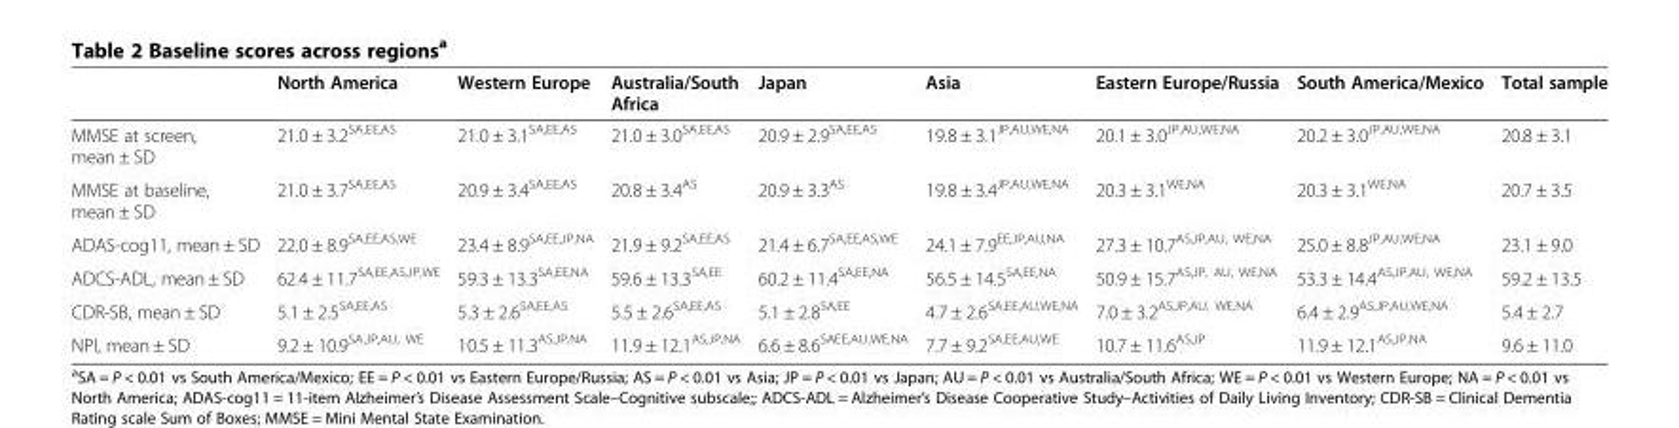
<table><thead><tr><td></td><td>North America</td><td>Western Europe</td><td>Australia/South Africa</td><td>Japan</td><td>Asia</td><td>Eastern Europe/Russia</td><td>South America/Mexico</td><td>Total sample</td></tr></thead><tbody><tr><td>MMSE at screen, mean ± SD</td><td>21.0 ± 3.2<sup>SA,EE,AS</sup></td><td>21.0 ± 3.1<sup>SA,EE,AS</sup></td><td>21.0 ± 3.0<sup>SA,EE,AS</sup></td><td>20.9 ± 2.9<sup>SA,EE,AS</sup></td><td>19.8 ± 3.1<sup>JP,AU,WE,NA</sup></td><td>20.1 ± 3.0<sup>JP,AU,WE,NA</sup></td><td>20.2 ± 3.0<sup>JP,AU,WE,NA</sup></td><td>20.8 ± 3.1</td></tr><tr><td>MMSE at baseline, mean ± SD</td><td>21.0 ± 3.7<sup>SA,EE,AS</sup></td><td>20.9 ± 3.4<sup>SA,EE,AS</sup></td><td>20.8 ± 3.4<sup>AS</sup></td><td>20.9 ± 3.3<sup>AS</sup></td><td>19.8 ± 3.4<sup>JP,AU,WE,NA</sup></td><td>20.3 ± 3.1<sup>WE,NA</sup></td><td>20.3 ± 3.1<sup>WE,NA</sup></td><td>20.7 ± 3.5</td></tr><tr><td>ADAS-cog11, mean ± SD</td><td>22.0 ± 8.9<sup>SA,EE,AS,WE</sup></td><td>23.4 ± 8.9<sup>SA,EE,JP,NA</sup></td><td>21.9 ± 9.2<sup>SA,EE,AS</sup></td><td>21.4 ± 6.7<sup>SA,EE,AS,WE</sup></td><td>24.1 ± 7.9<sup>EE,JP,AU,NA</sup></td><td>27.3 ± 10.7<sup>AS,JP,AU, WE,NA</sup></td><td>25.0 ± 8.8<sup>JP,AU,WE,NA</sup></td><td>23.1 ± 9.0</td></tr><tr><td>ADCS-ADL, mean ± SD</td><td>62.4 ± 11.7<sup>SA,EE,AS,JP,WE</sup></td><td>59.3 ± 13.3<sup>SA,EE,NA</sup></td><td>59.6 ± 13.3<sup>SA,EE</sup></td><td>60.2 ± 11.4<sup>SA,EE,NA</sup></td><td>56.5 ± 14.5<sup>SA,EE,NA</sup></td><td>50.9 ± 15.7<sup>AS,JP, AU, WE,NA</sup></td><td>53.3 ± 14.4<sup>AS,JP,AU, WE,NA</sup></td><td>59.2 ± 13.5</td></tr><tr><td>CDR-SB, mean ± SD</td><td>5.1 ± 2.5<sup>SA,EE,AS</sup></td><td>5.3 ± 2.6<sup>SA,EE,AS</sup></td><td>5.5 ± 2.6<sup>SA,EE,AS</sup></td><td>5.1 ± 2.8<sup>SA,EE</sup></td><td>4.7 ± 2.6<sup>SA,EE,AU,WE,NA</sup></td><td>7.0 ± 3.2<sup>AS,JP,AU, WE,NA</sup></td><td>6.4 ± 2.9<sup>AS,JP,AU,WE,NA</sup></td><td>5.4 ± 2.7</td></tr><tr><td>NPI, mean ± SD</td><td>9.2 ± 10.9<sup>SA,JP,AU, WE</sup></td><td>10.5 ± 11.3<sup>AS,JP,NA</sup></td><td>11.9 ± 12.1<sup>AS,JP,NA</sup></td><td>6.6 ± 8.6<sup>SAEE,AU,WE,NA</sup></td><td>7.7 ± 9.2<sup>SA,EE,AU,WE</sup></td><td>10.7 ± 11.6<sup>AS,JP</sup></td><td>11.9 ± 12.1<sup>AS,JP,NA</sup></td><td>9.6 ± 11.0</td></tr></tbody></table>